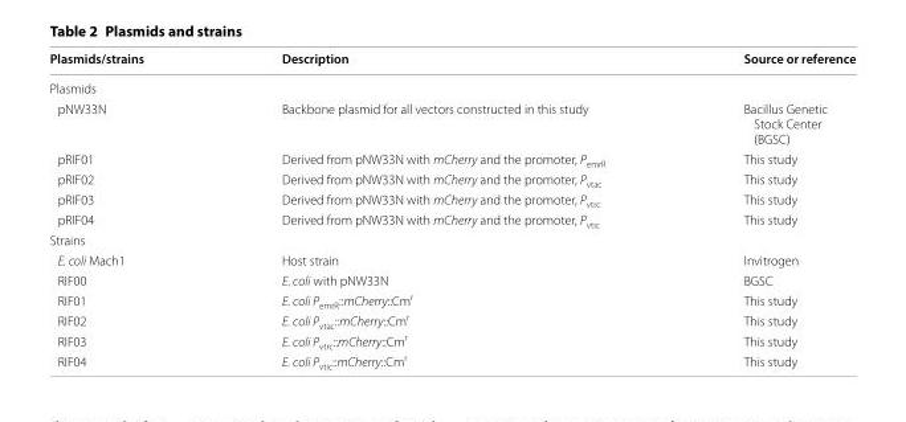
<table><thead><tr><td>Plasmids/strains</td><td>Description</td><td>Source or reference</td></tr></thead><tbody><tr><td colspan="3">Plasmids</td></tr><tr><td>pNW33N</td><td>Backbone plasmid for all vectors constructed in this study</td><td>Bacillus Genetic Stock Center (BGSC)</td></tr><tr><td>pRIF01</td><td>Derived from pNW33N with mCherry and the promoter, P<sub>emrR</sub></td><td>This study</td></tr><tr><td>pRIF02</td><td>Derived from pNW33N with mCherry and the promoter, P<sub>vtac</sub></td><td>This study</td></tr><tr><td>pRIF03</td><td>Derived from pNW33N with mCherry and the promoter, P<sub>vtrc</sub></td><td>This study</td></tr><tr><td>pRIF04</td><td>Derived from pNW33N with mCherry and the promoter, P<sub>vtic</sub></td><td>This study</td></tr><tr><td colspan="3">Strains</td></tr><tr><td>E. coli Mach1</td><td>Host strain</td><td>Invitrogen</td></tr><tr><td>RIF00</td><td>E. coli with pNW33N</td><td>BGSC</td></tr><tr><td>RIF01</td><td>E. coli P<sub>emrR</sub>::mCherry::Cm<sup>r</sup></td><td>This study</td></tr><tr><td>RIF02</td><td>E. coli P<sub>vtac</sub>::mCherry::Cm<sup>r</sup></td><td>This study</td></tr><tr><td>RIF03</td><td>E. coli P<sub>vtrc</sub>::mCherry::Cm<sup>r</sup></td><td>This study</td></tr><tr><td>RIF04</td><td>E. coli P<sub>vtic</sub>::mCherry::Cm<sup>r</sup></td><td>This study</td></tr></tbody></table>